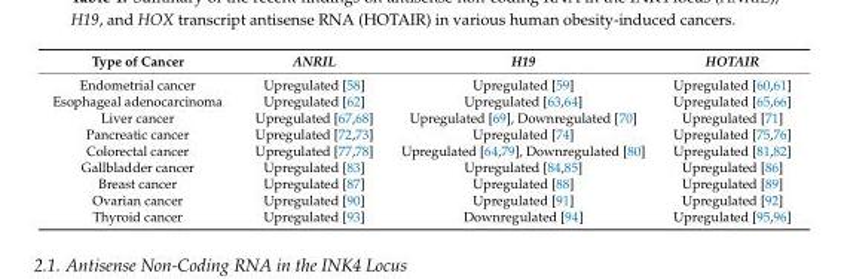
<table><thead><tr><td>Type of Cancer</td><td>ANRIL</td><td>H19</td><td>HOTAIR</td></tr></thead><tbody><tr><td>Endometrial cancer</td><td>Upregulated [58]</td><td>Upregulated [59]</td><td>Upregulated [60,61]</td></tr><tr><td>Esophageal adenocarcinoma</td><td>Upregulated [62]</td><td>Upregulated [63,64]</td><td>Upregulated [65,66]</td></tr><tr><td>Liver cancer</td><td>Upregulated [67,68]</td><td>Upregulated [69], Downregulated [70]</td><td>Upregulated [71]</td></tr><tr><td>Pancreatic cancer</td><td>Upregulated [72,73]</td><td>Upregulated [74]</td><td>Upregulated [75,76]</td></tr><tr><td>Colorectal cancer</td><td>Upregulated [77,78]</td><td>Upregulated [64,79], Downregulated [80]</td><td>Upregulated [81,82]</td></tr><tr><td>Gallbladder cancer</td><td>Upregulated [83]</td><td>Upregulated [84,85]</td><td>Upregulated [86]</td></tr><tr><td>Breast cancer</td><td>Upregulated [87]</td><td>Upregulated [88]</td><td>Upregulated [89]</td></tr><tr><td>Ovarian cancer</td><td>Upregulated [90]</td><td>Upregulated [91]</td><td>Upregulated [92]</td></tr><tr><td>Thyroid cancer</td><td>Upregulated [93]</td><td>Downregulated [94]</td><td>Upregulated [95,96]</td></tr></tbody></table>